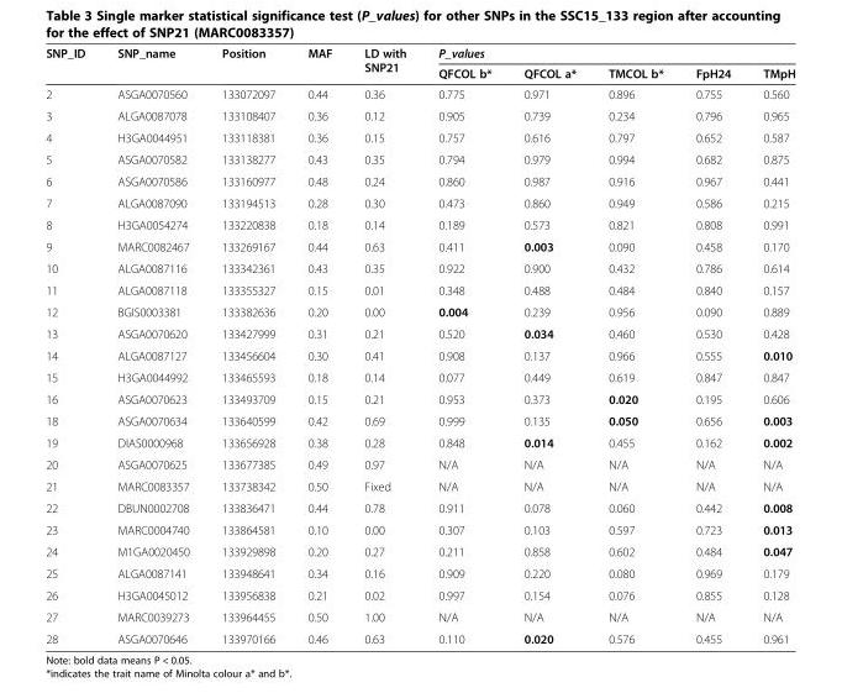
<table><thead><tr><td rowspan="2">SNP_ID</td><td rowspan="2">SNP_name</td><td rowspan="2">Position</td><td rowspan="2">MAF</td><td rowspan="2">LD with SNP21</td><td colspan="5">P_values</td></tr><tr><td>QFCOL b*</td><td>QFCOL a*</td><td>TMCOL b*</td><td>FpH24</td><td>TMpH</td></tr></thead><tbody><tr><td>2</td><td>ASGA0070560</td><td>133072097</td><td>0.44</td><td>0.36</td><td>0.775</td><td>0.971</td><td>0.896</td><td>0.755</td><td>0.560</td></tr><tr><td>3</td><td>ALGA0087078</td><td>133108407</td><td>0.36</td><td>0.12</td><td>0.905</td><td>0.739</td><td>0.234</td><td>0.796</td><td>0.965</td></tr><tr><td>4</td><td>H3GA0044951</td><td>133118381</td><td>0.36</td><td>0.15</td><td>0.757</td><td>0.616</td><td>0.797</td><td>0.652</td><td>0.587</td></tr><tr><td>5</td><td>ASGA0070582</td><td>133138277</td><td>0.43</td><td>0.35</td><td>0.794</td><td>0.979</td><td>0.994</td><td>0.682</td><td>0.875</td></tr><tr><td>6</td><td>ASGA0070586</td><td>133160977</td><td>0.48</td><td>0.24</td><td>0.860</td><td>0.987</td><td>0.916</td><td>0.967</td><td>0.441</td></tr><tr><td>7</td><td>ALGA0087090</td><td>133194513</td><td>0.28</td><td>0.30</td><td>0.473</td><td>0.860</td><td>0.949</td><td>0.586</td><td>0.215</td></tr><tr><td>8</td><td>H3GA0054274</td><td>133220838</td><td>0.18</td><td>0.14</td><td>0.189</td><td>0.573</td><td>0.821</td><td>0.808</td><td>0.991</td></tr><tr><td>9</td><td>MARC0082467</td><td>133269167</td><td>0.44</td><td>0.63</td><td>0.411</td><td>0.003</td><td>0.090</td><td>0.458</td><td>0.170</td></tr><tr><td>10</td><td>ALGA0087116</td><td>133342361</td><td>0.43</td><td>0.35</td><td>0.922</td><td>0.900</td><td>0.432</td><td>0.786</td><td>0.614</td></tr><tr><td>11</td><td>ALGA0087118</td><td>133355327</td><td>0.15</td><td>0.01</td><td>0.348</td><td>0.488</td><td>0.484</td><td>0.840</td><td>0.157</td></tr><tr><td>12</td><td>BGIS0003381</td><td>133382636</td><td>0.20</td><td>0.00</td><td>0.004</td><td>0.239</td><td>0.956</td><td>0.090</td><td>0.889</td></tr><tr><td>13</td><td>ASGA0070620</td><td>133427999</td><td>0.31</td><td>0.21</td><td>0.520</td><td>0.034</td><td>0.460</td><td>0.530</td><td>0.428</td></tr><tr><td>14</td><td>ALGA0087127</td><td>133456604</td><td>0.30</td><td>0.41</td><td>0.908</td><td>0.137</td><td>0.966</td><td>0.555</td><td>0.010</td></tr><tr><td>15</td><td>H3GA0044992</td><td>133465593</td><td>0.18</td><td>0.14</td><td>0.077</td><td>0.449</td><td>0.619</td><td>0.847</td><td>0.847</td></tr><tr><td>16</td><td>ASGA0070623</td><td>133493709</td><td>0.15</td><td>0.21</td><td>0.953</td><td>0.373</td><td>0.020</td><td>0.195</td><td>0.606</td></tr><tr><td>18</td><td>ASGA0070634</td><td>133640599</td><td>0.42</td><td>0.69</td><td>0.999</td><td>0.135</td><td>0.050</td><td>0.656</td><td>0.003</td></tr><tr><td>19</td><td>DIAS0000968</td><td>133656928</td><td>0.38</td><td>0.28</td><td>0.848</td><td>0.014</td><td>0.455</td><td>0.162</td><td>0.002</td></tr><tr><td>20</td><td>ASGA0070625</td><td>133677385</td><td>0.49</td><td>0.97</td><td>N/A</td><td>N/A</td><td>N/A</td><td>N/A</td><td>N/A</td></tr><tr><td>21</td><td>MARC0083357</td><td>133738342</td><td>0.50</td><td>Fixed</td><td>N/A</td><td>N/A</td><td>N/A</td><td>N/A</td><td>N/A</td></tr><tr><td>22</td><td>DBUN0002708</td><td>133836471</td><td>0.44</td><td>0.78</td><td>0.911</td><td>0.078</td><td>0.060</td><td>0.442</td><td>0.008</td></tr><tr><td>23</td><td>MARC0004740</td><td>133864581</td><td>0.10</td><td>0.00</td><td>0.307</td><td>0.103</td><td>0.597</td><td>0.723</td><td>0.013</td></tr><tr><td>24</td><td>M1GA0020450</td><td>133929898</td><td>0.20</td><td>0.27</td><td>0.211</td><td>0.858</td><td>0.602</td><td>0.484</td><td>0.047</td></tr><tr><td>25</td><td>ALGA0087141</td><td>133948641</td><td>0.34</td><td>0.16</td><td>0.909</td><td>0.220</td><td>0.080</td><td>0.969</td><td>0.179</td></tr><tr><td>26</td><td>H3GA0045012</td><td>133956838</td><td>0.21</td><td>0.02</td><td>0.997</td><td>0.154</td><td>0.076</td><td>0.855</td><td>0.128</td></tr><tr><td>27</td><td>MARC0039273</td><td>133964455</td><td>0.50</td><td>1.00</td><td>N/A</td><td>N/A</td><td>N/A</td><td>N/A</td><td>N/A</td></tr><tr><td>28</td><td>ASGA0070646</td><td>133970166</td><td>0.46</td><td>0.63</td><td>0.110</td><td>0.020</td><td>0.576</td><td>0.455</td><td>0.961</td></tr></tbody></table>